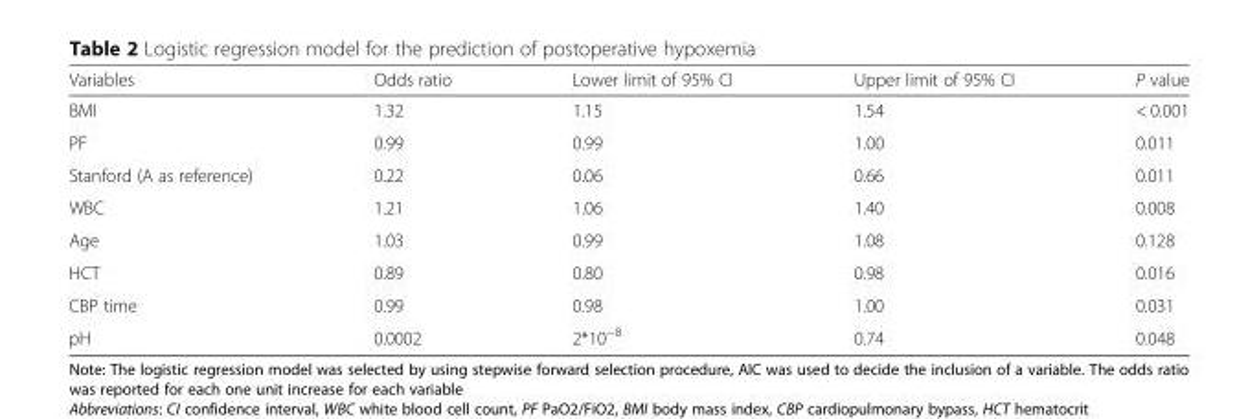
<table><thead><tr><td>Variables</td><td>Odds ratio</td><td>Lower limit of 95% CI</td><td>Upper limit of 95% CI</td><td>P value</td></tr></thead><tbody><tr><td>BMI</td><td>1.32</td><td>1.15</td><td>1.54</td><td>&lt; 0.001</td></tr><tr><td>PF</td><td>0.99</td><td>0.99</td><td>1.00</td><td>0.011</td></tr><tr><td>Stanford (A as reference)</td><td>0.22</td><td>0.06</td><td>0.66</td><td>0.011</td></tr><tr><td>WBC</td><td>1.21</td><td>1.06</td><td>1.40</td><td>0.008</td></tr><tr><td>Age</td><td>1.03</td><td>0.99</td><td>1.08</td><td>0.128</td></tr><tr><td>HCT</td><td>0.89</td><td>0.80</td><td>0.98</td><td>0.016</td></tr><tr><td>CBP time</td><td>0.99</td><td>0.98</td><td>1.00</td><td>0.031</td></tr><tr><td>pH</td><td>0.0002</td><td>2*10<sup>−8</sup></td><td>0.74</td><td>0.048</td></tr></tbody></table>